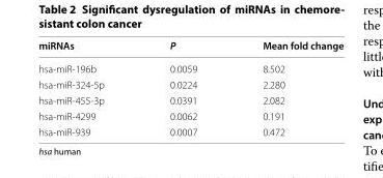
<table><thead><tr><td>miRNAs</td><td>P</td><td>Mean fold change</td></tr></thead><tbody><tr><td>hsa-miR-196b</td><td>0.0059</td><td>8.502</td></tr><tr><td>hsa-miR-324-5p</td><td>0.0224</td><td>2.280</td></tr><tr><td>hsa-miR-455-3p</td><td>0.0391</td><td>2.082</td></tr><tr><td>hsa-miR-4299</td><td>0.0062</td><td>0.191</td></tr><tr><td>hsa-miR-939</td><td>0.0007</td><td>0.472</td></tr></tbody></table>